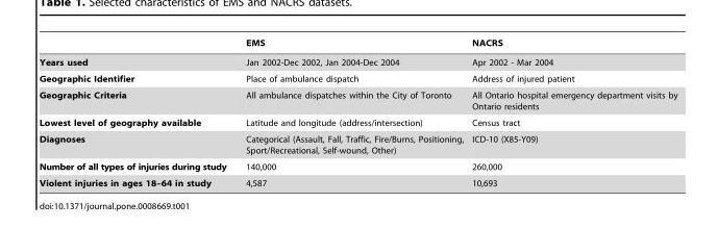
<table><thead><tr><td></td><td>EMS</td><td>NACRS</td></tr></thead><tbody><tr><td>Years used</td><td>Jan 2002-Dec 2002, Jan 2004-Dec 2004</td><td>Apr 2002 - Mar 2004</td></tr><tr><td>Geographic Identifier</td><td>Place of ambulance dispatch</td><td>Address of injured patient</td></tr><tr><td>Geographic Criteria</td><td>All ambulance dispatches within the City of Toronto</td><td>All Ontario hospital emergency department visits by Ontario residents</td></tr><tr><td>Lowest level of geography available</td><td>Latitude and longitude (address/intersection)</td><td>Census tract</td></tr><tr><td>Diagnoses</td><td>Categorical (Assault, Fall, Traffic, Fire/Burns, Positioning, Sport/Recreational, Self-wound, Other)</td><td>ICD-10 (X85-Y09)</td></tr><tr><td>Number of all types of injuries during study</td><td>140,000</td><td>260,000</td></tr><tr><td>Violent injuries in ages 18–64 in study</td><td>4,587</td><td>10,693</td></tr></tbody></table>